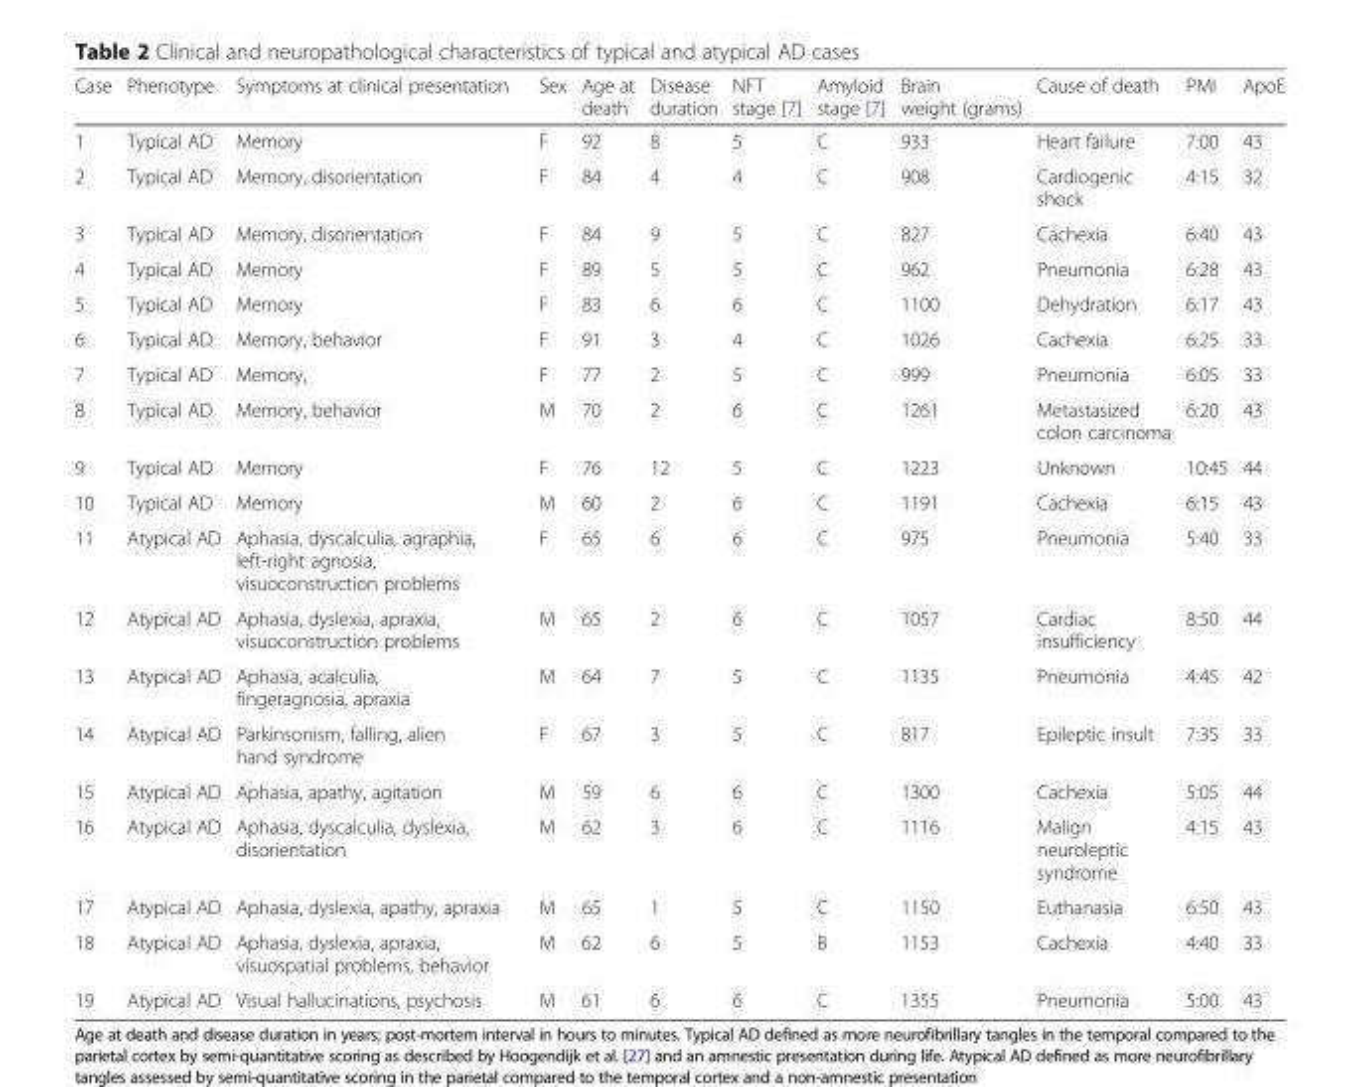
<table><thead><tr><td>Case</td><td>Phenotype</td><td>Symptoms at clinical presentation</td><td>Sex</td><td>Age at death</td><td>Disease duration</td><td>NFT stage [7]</td><td>Amyloid stage [7]</td><td>Brain weight (grams)</td><td>Cause of death</td><td>PMI</td><td>ApoE</td></tr></thead><tbody><tr><td>1</td><td>Typical AD</td><td>Memory</td><td>F</td><td>92</td><td>8</td><td>5</td><td>C</td><td>933</td><td>Heart failure</td><td>7:00</td><td>43</td></tr><tr><td>2</td><td>Typical AD</td><td>Memory, disorientation</td><td>F</td><td>84</td><td>4</td><td>4</td><td>C</td><td>908</td><td>Cardiogenic shock</td><td>4:15</td><td>32</td></tr><tr><td>3</td><td>Typical AD</td><td>Memory, disorientation</td><td>F</td><td>84</td><td>9</td><td>5</td><td>C</td><td>827</td><td>Cachexia</td><td>6:40</td><td>43</td></tr><tr><td>4</td><td>Typical AD</td><td>Memory</td><td>F</td><td>89</td><td>5</td><td>5</td><td>C</td><td>962</td><td>Pneumonia</td><td>6:28</td><td>43</td></tr><tr><td>5</td><td>Typical AD</td><td>Memory</td><td>F</td><td>83</td><td>6</td><td>6</td><td>C</td><td>1100</td><td>Dehydration</td><td>6:17</td><td>43</td></tr><tr><td>6</td><td>Typical AD</td><td>Memory, behavior</td><td>F</td><td>91</td><td>3</td><td>4</td><td>C</td><td>1026</td><td>Cachexia</td><td>6:25</td><td>33</td></tr><tr><td>7</td><td>Typical AD</td><td>Memory,</td><td>F</td><td>77</td><td>2</td><td>5</td><td>C</td><td>999</td><td>Pneumonia</td><td>6:05</td><td>33</td></tr><tr><td>8</td><td>Typical AD</td><td>Memory, behavior</td><td>M</td><td>70</td><td>2</td><td>6</td><td>C</td><td>1261</td><td>Metastasized colon carcinoma</td><td>6:20</td><td>43</td></tr><tr><td>9</td><td>Typical AD</td><td>Memory</td><td>F</td><td>76</td><td>12</td><td>5</td><td>C</td><td>1223</td><td>Unknown</td><td>10:45</td><td>44</td></tr><tr><td>10</td><td>Typical AD</td><td>Memory</td><td>M</td><td>60</td><td>2</td><td>6</td><td>C</td><td>1191</td><td>Cachexia</td><td>6:15</td><td>43</td></tr><tr><td>11</td><td>Atypical AD</td><td>Aphasia, dyscalculia, agraphia, left-right agnosia, visuoconstruction problems</td><td>F</td><td>65</td><td>6</td><td>6</td><td>C</td><td>975</td><td>Pneumonia</td><td>5:40</td><td>33</td></tr><tr><td>12</td><td>Atypical AD</td><td>Aphasia, dyslexia, apraxia, visuoconstruction problems</td><td>M</td><td>65</td><td>2</td><td>6</td><td>C</td><td>1057</td><td>Cardiac insufficiency</td><td>8:50</td><td>44</td></tr><tr><td>13</td><td>Atypical AD</td><td>Aphasia, acalculia, fingeragnosia, apraxia</td><td>M</td><td>64</td><td>7</td><td>5</td><td>C</td><td>1135</td><td>Pneumonia</td><td>4:45</td><td>42</td></tr><tr><td>14</td><td>Atypical AD</td><td>Parkinsonism, falling, alien hand syndrome</td><td>F</td><td>67</td><td>3</td><td>5</td><td>C</td><td>817</td><td>Epileptic insult</td><td>7:35</td><td>33</td></tr><tr><td>15</td><td>Atypical AD</td><td>Aphasia, apathy, agitation</td><td>M</td><td>59</td><td>6</td><td>6</td><td>C</td><td>1300</td><td>Cachexia</td><td>5:05</td><td>44</td></tr><tr><td>16</td><td>Atypical AD</td><td>Aphasia, dyscalculia, dyslexia, disorientation</td><td>M</td><td>62</td><td>3</td><td>6</td><td>C</td><td>1116</td><td>Malign neuroleptic syndrome</td><td>4:15</td><td>43</td></tr><tr><td>17</td><td>Atypical AD</td><td>Aphasia, dyslexia, apathy, apraxia</td><td>M</td><td>65</td><td>1</td><td>5</td><td>C</td><td>1150</td><td>Euthanasia</td><td>6:50</td><td>43</td></tr><tr><td>18</td><td>Atypical AD</td><td>Aphasia, dyslexia, apraxia, visuospatial problems, behavior</td><td>M</td><td>62</td><td>6</td><td>5</td><td>B</td><td>1153</td><td>Cachexia</td><td>4:40</td><td>33</td></tr><tr><td>19</td><td>Atypical AD</td><td>Visual hallucinations, psychosis</td><td>M</td><td>61</td><td>6</td><td>6</td><td>C</td><td>1355</td><td>Pneumonia</td><td>5:00</td><td>43</td></tr></tbody></table>